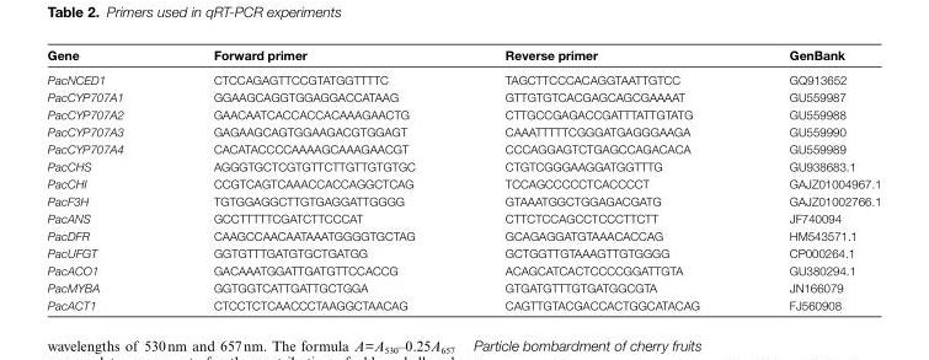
<table><thead><tr><td>Gene</td><td>Forward primer</td><td>Reverse primer</td><td>GenBank</td></tr></thead><tbody><tr><td>PacNCED1</td><td>CTCCAGAGTTCCGTATGGTTTTC</td><td>TAGCTTCCCACAGGTAATTGTCC</td><td>GQ913652</td></tr><tr><td>PacCYP707A1</td><td>GGAAGCAGGTGGAGGACCATAAG</td><td>GTTGTGTCACGAGCAGCGAAAAT</td><td>GU559987</td></tr><tr><td>PacCYP707A2</td><td>GAACAATCACCACCACAAAGAACTG</td><td>CTTGCCGAGACCGATTTATTGTATG</td><td>GU559988</td></tr><tr><td>PacCYP707A3</td><td>GAGAAGCAGTGGAAGACGTGGAGT</td><td>CAAATTTTTCGGGATGAGGGAAGA</td><td>GU559990</td></tr><tr><td>PacCYP707A4</td><td>CACATACCCCAAAAGCAAAGAACGT</td><td>CCCAGGAGTCTGAGCCAGACACA</td><td>GU559989</td></tr><tr><td>PacCHS</td><td>AGGGTGCTCGTGTTCTTGTTGTGTGC</td><td>CTGTCGGGAAGGATGGTTTG</td><td>GU938683.1</td></tr><tr><td>PacCHI</td><td>CCGTCAGTCAAACCACCAGGCTCAG</td><td>TCCAGCCCCCTCACCCCT</td><td>GAJZ01004967.1</td></tr><tr><td>PacF3H</td><td>TGTGGAGGCTTGTGAGGATTGGGG</td><td>GTAAATGGCTGGAGACGATG</td><td>GAJZ01002766.1</td></tr><tr><td>PacANS</td><td>GCCTTTTTCGATCTTCCCAT</td><td>CTTCTCCAGCCTCCCTTCTT</td><td>JF740094</td></tr><tr><td>PacDFR</td><td>CAAGCCAACAATAAATGGGGTGCTAG</td><td>GCAGAGGATGTAAACACCAG</td><td>HM543571.1</td></tr><tr><td>PacUFGT</td><td>GGTGTTTGATGTGCTGATGG</td><td>GCTGGTTGTAAAGTTGTGGGG</td><td>CP000264.1</td></tr><tr><td>PacACO1</td><td>GACAAATGGATTGATGTTCCACCG</td><td>ACAGCATCACTCCCCGGATTGTA</td><td>GU380294.1</td></tr><tr><td>PacMYBA</td><td>GGTGGTCATTGATTGCTGGA</td><td>GTGATGTTTGTGATGGCGTA</td><td>JN166079</td></tr><tr><td>PacACT1</td><td>CTCCTCTCAACCCTAAGGCTAACAG</td><td>CAGTTGTACGACCACTGGCATACAG</td><td>FJ560908</td></tr></tbody></table>